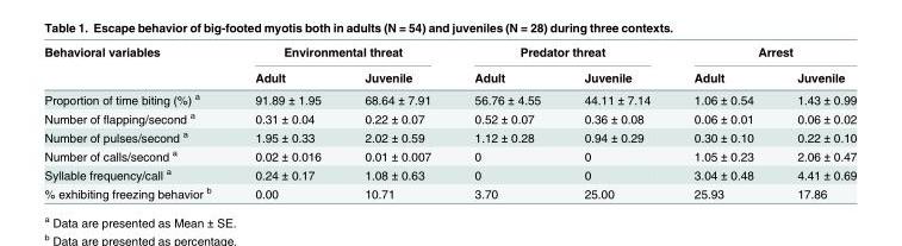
<table><thead><tr><td rowspan="2">Behavioral variables</td><td colspan="2">Environmental threat</td><td colspan="2">Predator threat</td><td colspan="2">Arrest</td></tr><tr><td>Adult</td><td>Juvenile</td><td>Adult</td><td>Juvenile</td><td>Adult</td><td>Juvenile</td></tr></thead><tbody><tr><td>Proportion of time biting (%) <sup>a</sup></td><td>91.89 ± 1.95</td><td>68.64 ± 7.91</td><td>56.76 ± 4.55</td><td>44.11 ± 7.14</td><td>1.06 ± 0.54</td><td>1.43 ± 0.99</td></tr><tr><td>Number of flapping/second <sup>a</sup></td><td>0.31 ± 0.04</td><td>0.22 ± 0.07</td><td>0.52 ± 0.07</td><td>0.36 ± 0.08</td><td>0.06 ± 0.01</td><td>0.06 ± 0.02</td></tr><tr><td>Number of pulses/second <sup>a</sup></td><td>1.95 ± 0.33</td><td>2.02 ± 0.59</td><td>1.12 ± 0.28</td><td>0.94 ± 0.29</td><td>0.30 ± 0.10</td><td>0.22 ± 0.10</td></tr><tr><td>Number of calls/second <sup>a</sup></td><td>0.02 ± 0.016</td><td>0.01 ± 0.007</td><td>0</td><td>0</td><td>1.05 ± 0.23</td><td>2.06 ± 0.47</td></tr><tr><td>Syllable frequency/call <sup>a</sup></td><td>0.24 ± 0.17</td><td>1.08 ± 0.63</td><td>0</td><td>0</td><td>3.04 ± 0.48</td><td>4.41 ± 0.69</td></tr><tr><td>% exhibiting freezing behavior <sup>b</sup></td><td>0.00</td><td>10.71</td><td>3.70</td><td>25.00</td><td>25.93</td><td>17.86</td></tr></tbody></table>